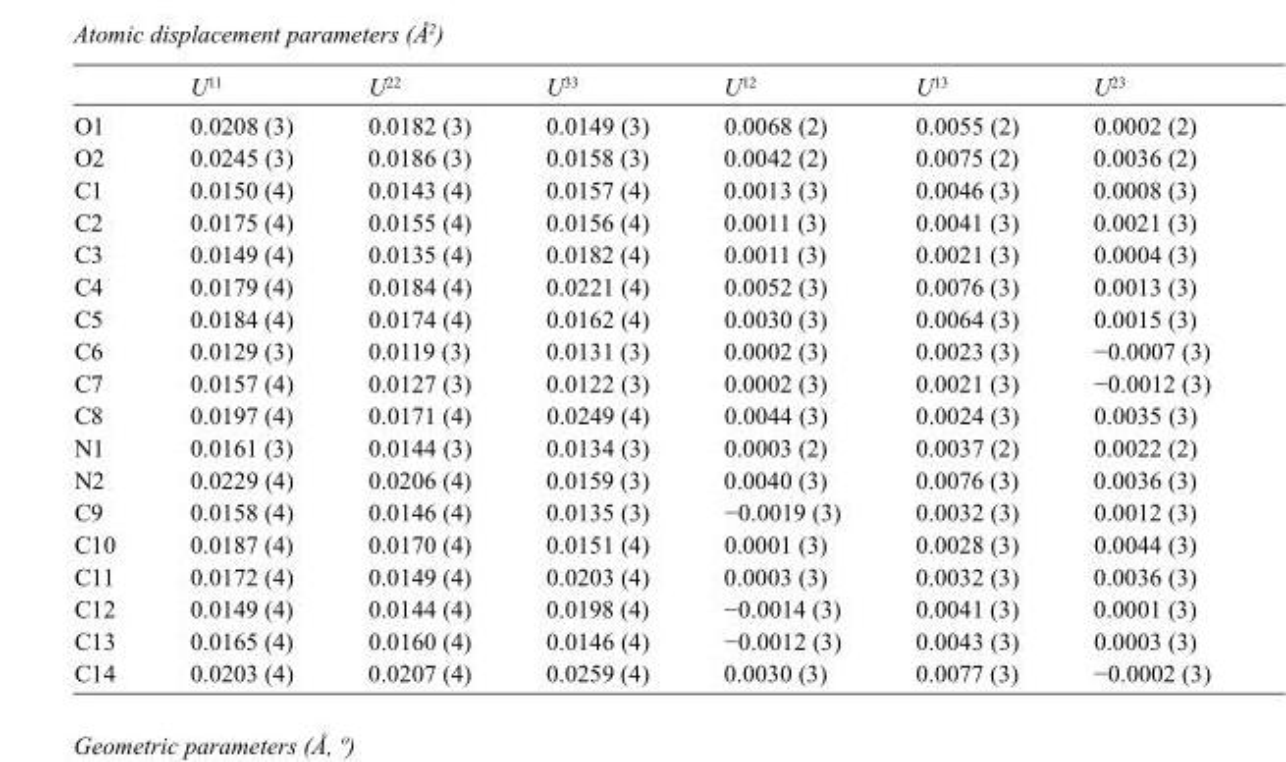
<table><thead><tr><td></td><td>U<sup>11</sup></td><td>U<sup>22</sup></td><td>U<sup>33</sup></td><td>U<sup>12</sup></td><td>U<sup>13</sup></td><td>U<sup>23</sup></td></tr></thead><tbody><tr><td>O1</td><td>0.0208 (3)</td><td>0.0182 (3)</td><td>0.0149 (3)</td><td>0.0068 (2)</td><td>0.0055 (2)</td><td>0.0002 (2)</td></tr><tr><td>O2</td><td>0.0245 (3)</td><td>0.0186 (3)</td><td>0.0158 (3)</td><td>0.0042 (2)</td><td>0.0075 (2)</td><td>0.0036 (2)</td></tr><tr><td>C1</td><td>0.0150 (4)</td><td>0.0143 (4)</td><td>0.0157 (4)</td><td>0.0013 (3)</td><td>0.0046 (3)</td><td>0.0008 (3)</td></tr><tr><td>C2</td><td>0.0175 (4)</td><td>0.0155 (4)</td><td>0.0156 (4)</td><td>0.0011 (3)</td><td>0.0041 (3)</td><td>0.0021 (3)</td></tr><tr><td>C3</td><td>0.0149 (4)</td><td>0.0135 (4)</td><td>0.0182 (4)</td><td>0.0011 (3)</td><td>0.0021 (3)</td><td>0.0004 (3)</td></tr><tr><td>C4</td><td>0.0179 (4)</td><td>0.0184 (4)</td><td>0.0221 (4)</td><td>0.0052 (3)</td><td>0.0076 (3)</td><td>0.0013 (3)</td></tr><tr><td>C5</td><td>0.0184 (4)</td><td>0.0174 (4)</td><td>0.0162 (4)</td><td>0.0030 (3)</td><td>0.0064 (3)</td><td>0.0015 (3)</td></tr><tr><td>C6</td><td>0.0129 (3)</td><td>0.0119 (3)</td><td>0.0131 (3)</td><td>0.0002 (3)</td><td>0.0023 (3)</td><td>−0.0007 (3)</td></tr><tr><td>C7</td><td>0.0157 (4)</td><td>0.0127 (3)</td><td>0.0122 (3)</td><td>0.0002 (3)</td><td>0.0021 (3)</td><td>−0.0012 (3)</td></tr><tr><td>C8</td><td>0.0197 (4)</td><td>0.0171 (4)</td><td>0.0249 (4)</td><td>0.0044 (3)</td><td>0.0024 (3)</td><td>0.0035 (3)</td></tr><tr><td>N1</td><td>0.0161 (3)</td><td>0.0144 (3)</td><td>0.0134 (3)</td><td>0.0003 (2)</td><td>0.0037 (2)</td><td>0.0022 (2)</td></tr><tr><td>N2</td><td>0.0229 (4)</td><td>0.0206 (4)</td><td>0.0159 (3)</td><td>0.0040 (3)</td><td>0.0076 (3)</td><td>0.0036 (3)</td></tr><tr><td>C9</td><td>0.0158 (4)</td><td>0.0146 (4)</td><td>0.0135 (3)</td><td>−0.0019 (3)</td><td>0.0032 (3)</td><td>0.0012 (3)</td></tr><tr><td>C10</td><td>0.0187 (4)</td><td>0.0170 (4)</td><td>0.0151 (4)</td><td>0.0001 (3)</td><td>0.0028 (3)</td><td>0.0044 (3)</td></tr><tr><td>C11</td><td>0.0172 (4)</td><td>0.0149 (4)</td><td>0.0203 (4)</td><td>0.0003 (3)</td><td>0.0032 (3)</td><td>0.0036 (3)</td></tr><tr><td>C12</td><td>0.0149 (4)</td><td>0.0144 (4)</td><td>0.0198 (4)</td><td>−0.0014 (3)</td><td>0.0041 (3)</td><td>0.0001 (3)</td></tr><tr><td>C13</td><td>0.0165 (4)</td><td>0.0160 (4)</td><td>0.0146 (4)</td><td>−0.0012 (3)</td><td>0.0043 (3)</td><td>0.0003 (3)</td></tr><tr><td>C14</td><td>0.0203 (4)</td><td>0.0207 (4)</td><td>0.0259 (4)</td><td>0.0030 (3)</td><td>0.0077 (3)</td><td>−0.0002 (3)</td></tr></tbody></table>